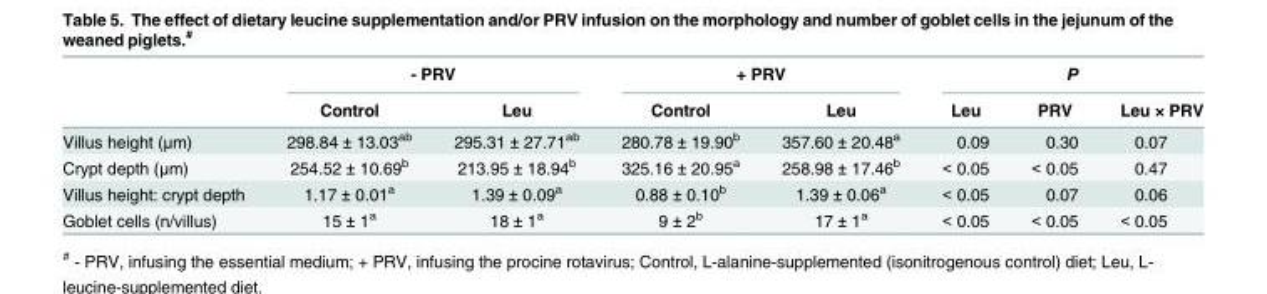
<table><thead><tr><td rowspan="2"></td><td colspan="2">- PRV</td><td colspan="2">+ PRV</td><td colspan="3">P</td></tr><tr><td>Control</td><td>Leu</td><td>Control</td><td>Leu</td><td>Leu</td><td>PRV</td><td>Leu × PRV</td></tr></thead><tbody><tr><td>Villus height (μm)</td><td>298.84 ± 13.03<sup>ab</sup></td><td>295.31 ± 27.71<sup>ab</sup></td><td>280.78 ± 19.90<sup>b</sup></td><td>357.60 ± 20.48<sup>a</sup></td><td>0.09</td><td>0.30</td><td>0.07</td></tr><tr><td>Crypt depth (μm)</td><td>254.52 ± 10.69<sup>b</sup></td><td>213.95 ± 18.94<sup>b</sup></td><td>325.16 ± 20.95<sup>a</sup></td><td>258.98 ± 17.46<sup>b</sup></td><td>&lt; 0.05</td><td>&lt; 0.05</td><td>0.47</td></tr><tr><td>Villus height: crypt depth</td><td>1.17 ± 0.01<sup>a</sup></td><td>1.39 ± 0.09<sup>a</sup></td><td>0.88 ± 0.10<sup>b</sup></td><td>1.39 ± 0.06<sup>a</sup></td><td>&lt; 0.05</td><td>0.07</td><td>0.06</td></tr><tr><td>Goblet cells (n/villus)</td><td>15 ± 1<sup>a</sup></td><td>18 ± 1<sup>a</sup></td><td>9 ± 2<sup>b</sup></td><td>17 ± 1<sup>a</sup></td><td>&lt; 0.05</td><td>&lt; 0.05</td><td>&lt; 0.05</td></tr></tbody></table>